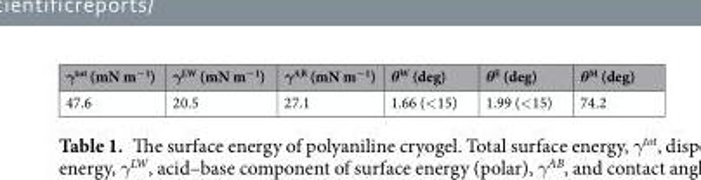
<table><thead><tr><td>γ<sup>tot</sup> (mN m<sup>−1</sup>)</td><td>γ<sup>LW</sup> (mN m<sup>−1</sup>)</td><td>γ<sup>AB</sup> (mN m<sup>−1</sup>)</td><td>θ<sup>W</sup> (deg)</td><td>θ<sup>E</sup> (deg)</td><td>θ<sup>M</sup> (deg)</td></tr></thead><tbody><tr><td>47.6</td><td>20.5</td><td>27.1</td><td>1.66 (&lt;15)</td><td>1.99 (&lt;15)</td><td>74.2</td></tr></tbody></table>